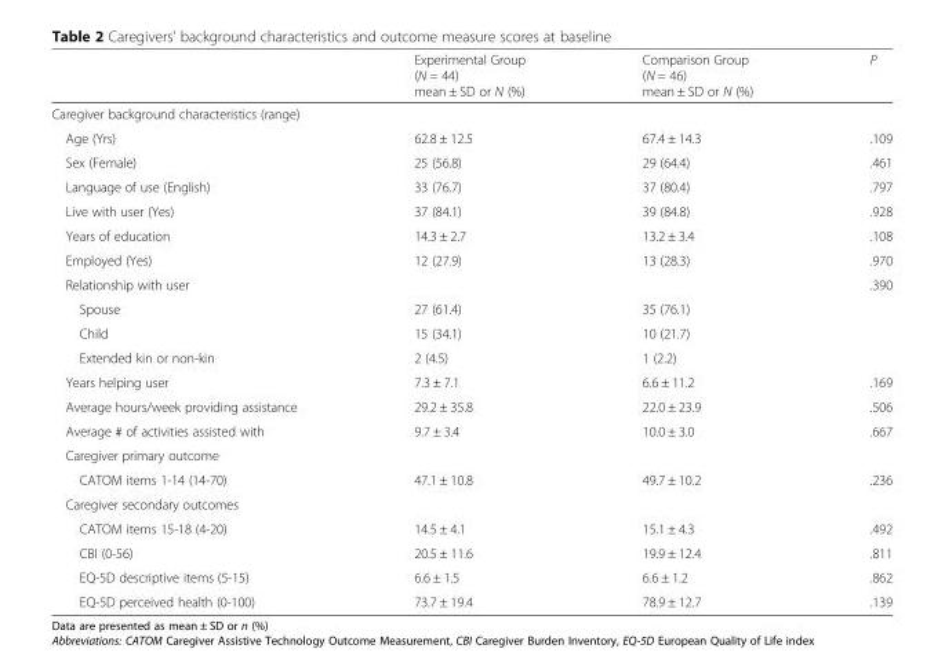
<table><thead><tr><td></td><td>Experimental Group (N = 44) mean ± SD or N (%)</td><td>Comparison Group (N = 46) mean ± SD or N (%)</td><td>P</td></tr></thead><tbody><tr><td colspan="4">Caregiver background characteristics (range)</td></tr><tr><td>Age (Yrs)</td><td>62.8 ± 12.5</td><td>67.4 ± 14.3</td><td>.109</td></tr><tr><td>Sex (Female)</td><td>25 (56.8)</td><td>29 (64.4)</td><td>.461</td></tr><tr><td>Language of use (English)</td><td>33 (76.7)</td><td>37 (80.4)</td><td>.797</td></tr><tr><td>Live with user (Yes)</td><td>37 (84.1)</td><td>39 (84.8)</td><td>.928</td></tr><tr><td>Years of education</td><td>14.3 ± 2.7</td><td>13.2 ± 3.4</td><td>.108</td></tr><tr><td>Employed (Yes)</td><td>12 (27.9)</td><td>13 (28.3)</td><td>.970</td></tr><tr><td>Relationship with user</td><td></td><td></td><td>.390</td></tr><tr><td>Spouse</td><td>27 (61.4)</td><td>35 (76.1)</td><td></td></tr><tr><td>Child</td><td>15 (34.1)</td><td>10 (21.7)</td><td></td></tr><tr><td>Extended kin or non-kin</td><td>2 (4.5)</td><td>1 (2.2)</td><td></td></tr><tr><td>Years helping user</td><td>7.3 ± 7.1</td><td>6.6 ± 11.2</td><td>.169</td></tr><tr><td>Average hours/week providing assistance</td><td>29.2 ± 35.8</td><td>22.0 ± 23.9</td><td>.506</td></tr><tr><td>Average # of activities assisted with</td><td>9.7 ± 3.4</td><td>10.0 ± 3.0</td><td>.667</td></tr><tr><td colspan="4">Caregiver primary outcome</td></tr><tr><td>CATOM items 1-14 (14-70)</td><td>47.1 ± 10.8</td><td>49.7 ± 10.2</td><td>.236</td></tr><tr><td colspan="4">Caregiver secondary outcomes</td></tr><tr><td>CATOM items 15-18 (4-20)</td><td>14.5 ± 4.1</td><td>15.1 ± 4.3</td><td>.492</td></tr><tr><td>CBI (0-56)</td><td>20.5 ± 11.6</td><td>19.9 ± 12.4</td><td>.811</td></tr><tr><td>EQ-5D descriptive items (5-15)</td><td>6.6 ± 1.5</td><td>6.6 ± 1.2</td><td>.862</td></tr><tr><td>EQ-5D perceived health (0-100)</td><td>73.7 ± 19.4</td><td>78.9 ± 12.7</td><td>.139</td></tr></tbody></table>